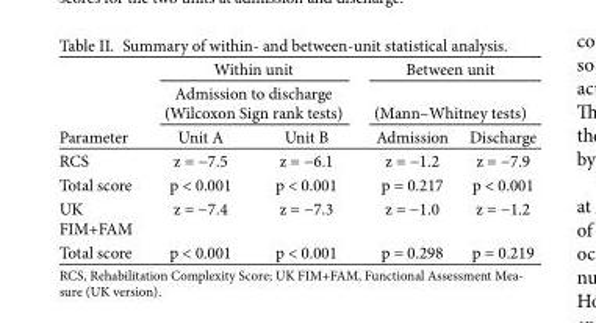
<table><thead><tr><td rowspan="3">Parameter</td><td rowspan="2" colspan="2">Within unit Admission to discharge (Wilcoxon Sign rank tests)</td><td rowspan="2" colspan="2">Between unit (Mann–Whitney tests)</td></tr><tr></tr><tr><td>Unit A</td><td>Unit B</td><td>Admission</td><td>Discharge</td></tr></thead><tbody><tr><td>RCS</td><td>z = −7.5</td><td>z = −6.1</td><td>z = −1.2</td><td>z = −7.9</td></tr><tr><td>Total score</td><td>p &lt; 0.001</td><td>p &lt; 0.001</td><td>p = 0.217</td><td>p &lt; 0.001</td></tr><tr><td>UK FIM+FAM</td><td>z = −7.4</td><td>z = −7.3</td><td>z = −1.0</td><td>z = −1.2</td></tr><tr><td>Total score</td><td>p &lt; 0.001</td><td>p &lt; 0.001</td><td>p = 0.298</td><td>p = 0.219</td></tr></tbody></table>